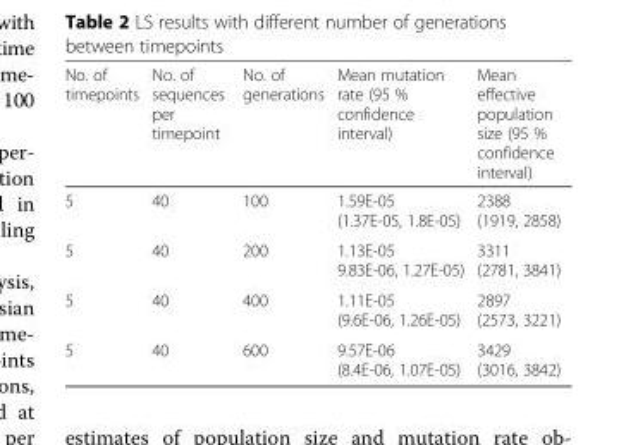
<table><thead><tr><td>No. of timepoints</td><td>No. of sequences per timepoint</td><td>No. of generations</td><td>Mean mutation rate (95 % confidence interval)</td><td>Mean effective population size (95 % confidence interval)</td></tr></thead><tbody><tr><td>5</td><td>40</td><td>100</td><td>1.59E-05 (1.37E-05, 1.8E-05)</td><td>2388 (1919, 2858)</td></tr><tr><td>5</td><td>40</td><td>200</td><td>1.13E-05 9.83E-06, 1.27E-05)</td><td>3311 (2781, 3841)</td></tr><tr><td>5</td><td>40</td><td>400</td><td>1.11E-05 (9.6E-06, 1.26E-05)</td><td>2897 (2573, 3221)</td></tr><tr><td>5</td><td>40</td><td>600</td><td>9.57E-06 (8.4E-06, 1.07E-05)</td><td>3429 (3016, 3842)</td></tr></tbody></table>